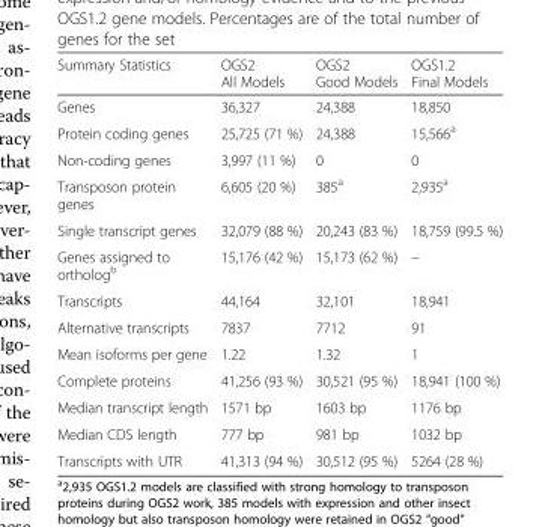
<table><thead><tr><td>Summary Statistics</td><td>OGS2 All Models</td><td>OGS2 Good Models</td><td>OGS1.2 Final Models</td></tr></thead><tbody><tr><td>Genes</td><td>36,327</td><td>24,388</td><td>18,850</td></tr><tr><td>Protein coding genes</td><td>25,725 (71 %)</td><td>24,388</td><td>15,566<sup>a</sup></td></tr><tr><td>Non-coding genes</td><td>3,997 (11 %)</td><td>0</td><td>0</td></tr><tr><td>Transposon protein genes</td><td>6,605 (20 %)</td><td>385<sup>a</sup></td><td>2,935<sup>a</sup></td></tr><tr><td>Single transcript genes</td><td>32,079 (88 %)</td><td>20,243 (83 %)</td><td>18,759 (99.5 %)</td></tr><tr><td>Genes assigned to ortholog<sup>b</sup></td><td>15,176 (42 %)</td><td>15,173 (62 %)</td><td>–</td></tr><tr><td>Transcripts</td><td>44,164</td><td>32,101</td><td>18,941</td></tr><tr><td>Alternative transcripts</td><td>7837</td><td>7712</td><td>91</td></tr><tr><td>Mean isoforms per gene</td><td>1.22</td><td>1.32</td><td>1</td></tr><tr><td>Complete proteins</td><td>41,256 (93 %)</td><td>30,521 (95 %)</td><td>18,941 (100 %)</td></tr><tr><td>Median transcript length</td><td>1571 bp</td><td>1603 bp</td><td>1176 bp</td></tr><tr><td>Median CDS length</td><td>777 bp</td><td>981 bp</td><td>1032 bp</td></tr><tr><td>Transcripts with UTR</td><td>41,313 (94 %)</td><td>30,512 (95 %)</td><td>5264 (28 %)</td></tr></tbody></table>